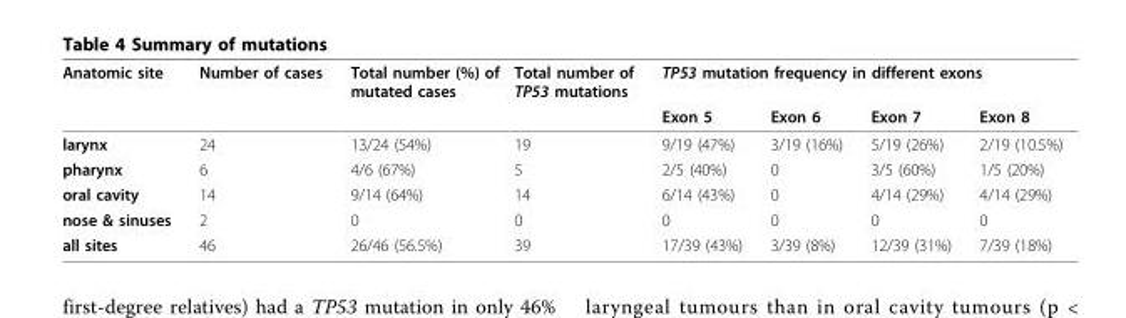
<table><thead><tr><td rowspan="2">Anatomic site</td><td rowspan="2">Number of cases</td><td rowspan="2">Total number (%) of mutated cases</td><td rowspan="2">Total number of TP53 mutations</td><td colspan="4">TP53 mutation frequency in different exons</td></tr><tr><td>Exon 5</td><td>Exon 6</td><td>Exon 7</td><td>Exon 8</td></tr></thead><tbody><tr><td>larynx</td><td>24</td><td>13/24 (54%)</td><td>19</td><td>9/19 (47%)</td><td>3/19 (16%)</td><td>5/19 (26%)</td><td>2/19 (10.5%)</td></tr><tr><td>pharynx</td><td>6</td><td>4/6 (67%)</td><td>5</td><td>2/5 (40%)</td><td>0</td><td>3/5 (60%)</td><td>1/5 (20%)</td></tr><tr><td>oral cavity</td><td>14</td><td>9/14 (64%)</td><td>14</td><td>6/14 (43%)</td><td>0</td><td>4/14 (29%)</td><td>4/14 (29%)</td></tr><tr><td>nose &amp; sinuses</td><td>2</td><td>0</td><td>0</td><td>0</td><td>0</td><td>0</td><td>0</td></tr><tr><td>all sites</td><td>46</td><td>26/46 (56.5%)</td><td>39</td><td>17/39 (43%)</td><td>3/39 (8%)</td><td>12/39 (31%)</td><td>7/39 (18%)</td></tr></tbody></table>